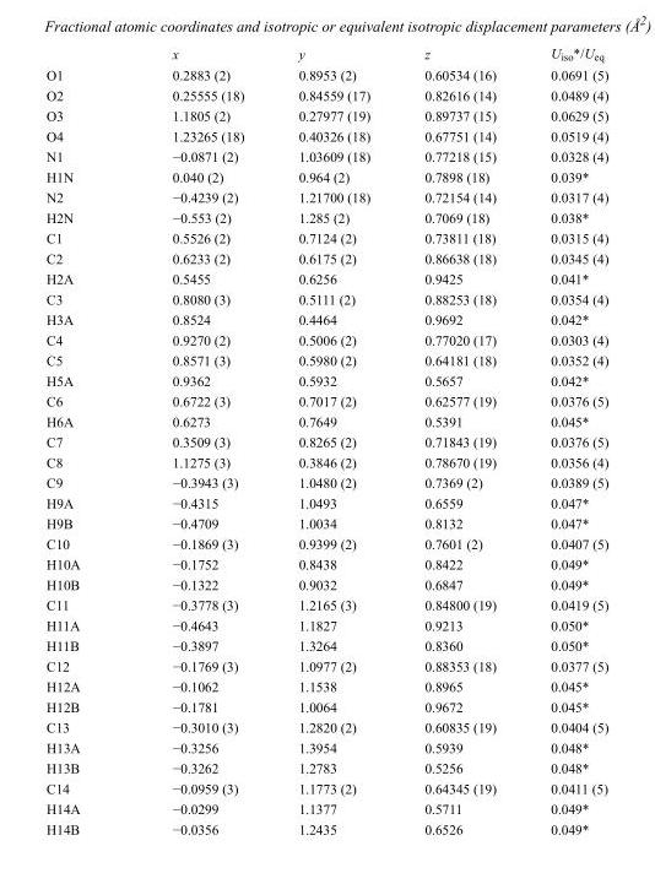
<table><thead><tr><td></td><td>x</td><td>y</td><td>z</td><td>U<sub>iso</sub>*/U<sub>eq</sub></td></tr></thead><tbody><tr><td>O1</td><td>0.2883 (2)</td><td>0.8953 (2)</td><td>0.60534 (16)</td><td>0.0691 (5)</td></tr><tr><td>O2</td><td>0.25555 (18)</td><td>0.84559 (17)</td><td>0.82616 (14)</td><td>0.0489 (4)</td></tr><tr><td>O3</td><td>1.1805 (2)</td><td>0.27977 (19)</td><td>0.89737 (15)</td><td>0.0629 (5)</td></tr><tr><td>O4</td><td>1.23265 (18)</td><td>0.40326 (18)</td><td>0.67751 (14)</td><td>0.0519 (4)</td></tr><tr><td>N1</td><td>−0.0871 (2)</td><td>1.03609 (18)</td><td>0.77218 (15)</td><td>0.0328 (4)</td></tr><tr><td>H1N</td><td>0.040 (2)</td><td>0.964 (2)</td><td>0.7898 (18)</td><td>0.039*</td></tr><tr><td>N2</td><td>−0.4239 (2)</td><td>1.21700 (18)</td><td>0.72154 (14)</td><td>0.0317 (4)</td></tr><tr><td>H2N</td><td>−0.553 (2)</td><td>1.285 (2)</td><td>0.7069 (18)</td><td>0.038*</td></tr><tr><td>C1</td><td>0.5526 (2)</td><td>0.7124 (2)</td><td>0.73811 (18)</td><td>0.0315 (4)</td></tr><tr><td>C2</td><td>0.6233 (2)</td><td>0.6175 (2)</td><td>0.86638 (18)</td><td>0.0345 (4)</td></tr><tr><td>H2A</td><td>0.5455</td><td>0.6256</td><td>0.9425</td><td>0.041*</td></tr><tr><td>C3</td><td>0.8080 (3)</td><td>0.5111 (2)</td><td>0.88253 (18)</td><td>0.0354 (4)</td></tr><tr><td>H3A</td><td>0.8524</td><td>0.4464</td><td>0.9692</td><td>0.042*</td></tr><tr><td>C4</td><td>0.9270 (2)</td><td>0.5006 (2)</td><td>0.77020 (17)</td><td>0.0303 (4)</td></tr><tr><td>C5</td><td>0.8571 (3)</td><td>0.5980 (2)</td><td>0.64181 (18)</td><td>0.0352 (4)</td></tr><tr><td>H5A</td><td>0.9362</td><td>0.5932</td><td>0.5657</td><td>0.042*</td></tr><tr><td>C6</td><td>0.6722 (3)</td><td>0.7017 (2)</td><td>0.62577 (19)</td><td>0.0376 (5)</td></tr><tr><td>H6A</td><td>0.6273</td><td>0.7649</td><td>0.5391</td><td>0.045*</td></tr><tr><td>C7</td><td>0.3509 (3)</td><td>0.8265 (2)</td><td>0.71843 (19)</td><td>0.0376 (5)</td></tr><tr><td>C8</td><td>1.1275 (3)</td><td>0.3846 (2)</td><td>0.78670 (19)</td><td>0.0356 (4)</td></tr><tr><td>C9</td><td>−0.3943 (3)</td><td>1.0480 (2)</td><td>0.7369 (2)</td><td>0.0389 (5)</td></tr><tr><td>H9A</td><td>−0.4315</td><td>1.0493</td><td>0.6559</td><td>0.047*</td></tr><tr><td>H9B</td><td>−0.4709</td><td>1.0034</td><td>0.8132</td><td>0.047*</td></tr><tr><td>C10</td><td>−0.1869 (3)</td><td>0.9399 (2)</td><td>0.7601 (2)</td><td>0.0407 (5)</td></tr><tr><td>H10A</td><td>−0.1752</td><td>0.8438</td><td>0.8422</td><td>0.049*</td></tr><tr><td>H10B</td><td>−0.1322</td><td>0.9032</td><td>0.6847</td><td>0.049*</td></tr><tr><td>C11</td><td>−0.3778 (3)</td><td>1.2165 (3)</td><td>0.84800 (19)</td><td>0.0419 (5)</td></tr><tr><td>H11A</td><td>−0.4643</td><td>1.1827</td><td>0.9213</td><td>0.050*</td></tr><tr><td>H11B</td><td>−0.3897</td><td>1.3264</td><td>0.8360</td><td>0.050*</td></tr><tr><td>C12</td><td>−0.1769 (3)</td><td>1.0977 (2)</td><td>0.88353 (18)</td><td>0.0377 (5)</td></tr><tr><td>H12A</td><td>−0.1062</td><td>1.1538</td><td>0.8965</td><td>0.045*</td></tr><tr><td>H12B</td><td>−0.1781</td><td>1.0064</td><td>0.9672</td><td>0.045*</td></tr><tr><td>C13</td><td>−0.3010 (3)</td><td>1.2820 (2)</td><td>0.60835 (19)</td><td>0.0404 (5)</td></tr><tr><td>H13A</td><td>−0.3256</td><td>1.3954</td><td>0.5939</td><td>0.048*</td></tr><tr><td>H13B</td><td>−0.3262</td><td>1.2783</td><td>0.5256</td><td>0.048*</td></tr><tr><td>C14</td><td>−0.0959 (3)</td><td>1.1773 (2)</td><td>0.64345 (19)</td><td>0.0411 (5)</td></tr><tr><td>H14A</td><td>−0.0299</td><td>1.1377</td><td>0.5711</td><td>0.049*</td></tr><tr><td>H14B</td><td>−0.0356</td><td>1.2435</td><td>0.6526</td><td>0.049*</td></tr></tbody></table>